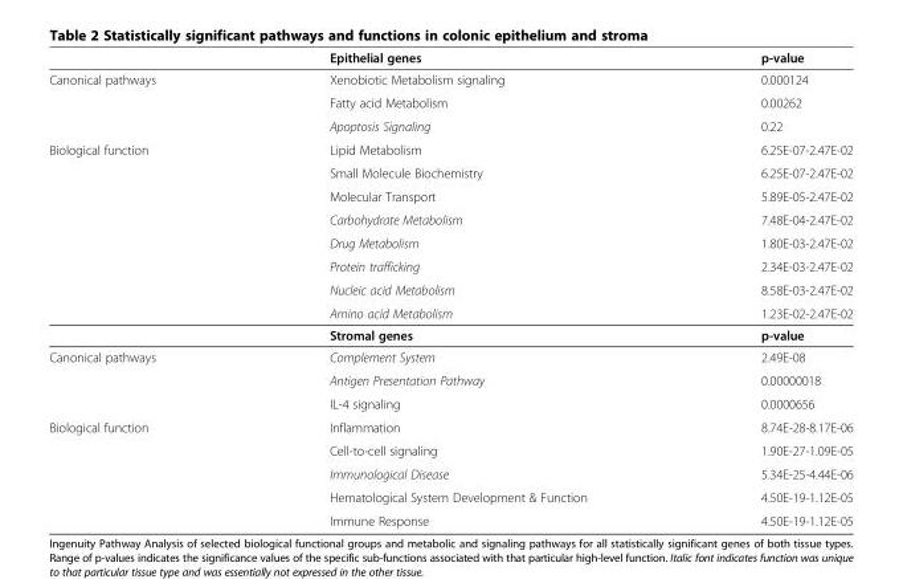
<table><thead><tr><td></td><td>Epithelial genes</td><td>p-value</td></tr></thead><tbody><tr><td rowspan="3">Canonical pathways</td><td>Xenobiotic Metabolism signaling</td><td>0.000124</td></tr><tr><td>Fatty acid Metabolism</td><td>0.00262</td></tr><tr><td>Apoptosis Signaling</td><td>0.22</td></tr><tr><td rowspan="9">Biological function</td><td>Lipid Metabolism</td><td>6.25E-07-2.47E-02</td></tr><tr><td>Small Molecule Biochemistry</td><td>6.25E-07-2.47E-02</td></tr><tr><td>Molecular Transport</td><td>5.89E-05-2.47E-02</td></tr><tr><td>Carbohydrate Metabolism</td><td>7.48E-04-2.47E-02</td></tr><tr><td>Drug Metabolism</td><td>1.80E-03-2.47E-02</td></tr><tr><td>Protein trafficking</td><td>2.34E-03-2.47E-02</td></tr><tr><td>Nucleic acid Metabolism</td><td>8.58E-03-2.47E-02</td></tr><tr><td>Amino acid Metabolism</td><td>1.23E-02-2.47E-02</td></tr><tr><td>Stromal genes</td><td>p-value</td></tr><tr><td rowspan="3">Canonical pathways</td><td>Complement System</td><td>2.49E-08</td></tr><tr><td>Antigen Presentation Pathway</td><td>0.00000018</td></tr><tr><td>IL-4 signaling</td><td>0.0000656</td></tr><tr><td rowspan="5">Biological function</td><td>Inflammation</td><td>8.74E-28-8.17E-06</td></tr><tr><td>Cell-to-cell signaling</td><td>1.90E-27-1.09E-05</td></tr><tr><td>Immunological Disease</td><td>5.34E-25-4.44E-06</td></tr><tr><td>Hematological System Development &amp; Function</td><td>4.50E-19-1.12E-05</td></tr><tr><td>Immune Response</td><td>4.50E-19-1.12E-05</td></tr></tbody></table>